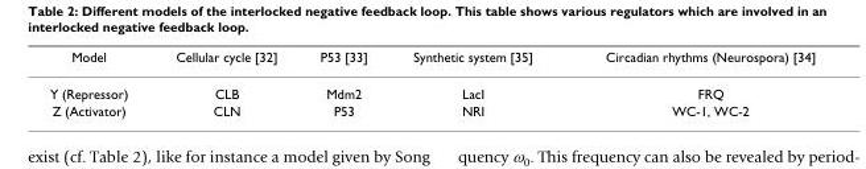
<table><thead><tr><td>Model</td><td>Cellular cycle [32]</td><td>P53 [33]</td><td>Synthetic system [35]</td><td>Circadian rhythms (Neurospora) [34]</td></tr></thead><tbody><tr><td>Y (Repressor)</td><td>CLB</td><td>Mdm2</td><td>LacI</td><td>FRQ</td></tr><tr><td>Z (Activator)</td><td>CLN</td><td>P53</td><td>NRI</td><td>WC-1, WC-2</td></tr></tbody></table>